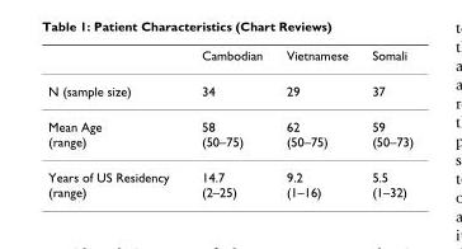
<table><thead><tr><td></td><td>Cambodian</td><td>Vietnamese</td><td>Somali</td></tr></thead><tbody><tr><td>N (sample size)</td><td>34</td><td>29</td><td>37</td></tr><tr><td>Mean Age (range)</td><td>58 (50–75)</td><td>62 (50–75)</td><td>59 (50–73)</td></tr><tr><td>Years of US Residency (range)</td><td>14.7 (2–25)</td><td>9.2 (1–16)</td><td>5.5 (1–32)</td></tr></tbody></table>